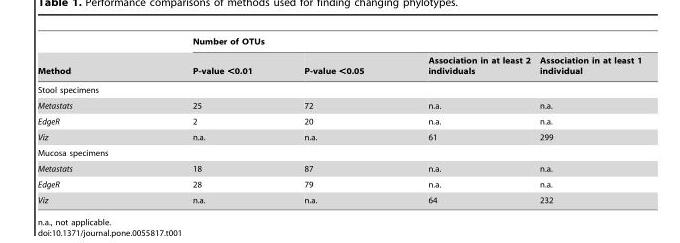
<table><thead><tr><td rowspan="2">Method</td><td colspan="4">Number of OTUs</td></tr><tr><td>P-value &lt;0.01</td><td>P-value &lt;0.05</td><td>Association in at least 2 individuals</td><td>Association in at least 1 individual</td></tr></thead><tbody><tr><td colspan="5">Stool specimens</td></tr><tr><td>Metastats</td><td>25</td><td>72</td><td>n.a.</td><td>n.a.</td></tr><tr><td>EdgeR</td><td>2</td><td>20</td><td>n.a.</td><td>n.a.</td></tr><tr><td>Viz</td><td>n.a.</td><td>n.a.</td><td>61</td><td>299</td></tr><tr><td colspan="5">Mucosa specimens</td></tr><tr><td>Metastats</td><td>18</td><td>87</td><td>n.a.</td><td>n.a.</td></tr><tr><td>EdgeR</td><td>28</td><td>79</td><td>n.a.</td><td>n.a.</td></tr><tr><td>Viz</td><td>n.a.</td><td>n.a.</td><td>64</td><td>232</td></tr></tbody></table>